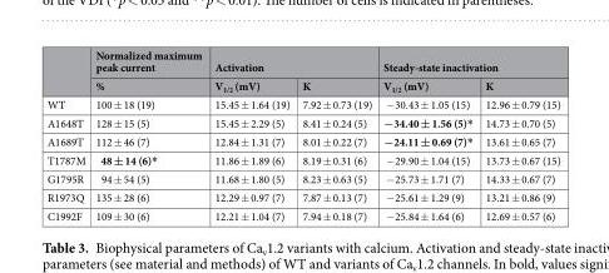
<table><thead><tr><td rowspan="2"></td><td rowspan="2">Normalized maximum peak current %</td><td colspan="2">Activation</td><td colspan="2">Steady-state inactivation</td></tr><tr><td>V<sub>1/2</sub> (mV)</td><td>K</td><td>V<sub>1/2</sub> (mV)</td><td>K</td></tr></thead><tbody><tr><td>WT</td><td>100 ± 18 (19)</td><td>15.45 ± 1.64 (19)</td><td>7.92 ± 0.73 (19)</td><td>−30.43 ± 1.05 (15)</td><td>12.96 ± 0.79 (15)</td></tr><tr><td>A1648T</td><td>128 ± 15 (5)</td><td>15.45 ± 2.29 (5)</td><td>8.41 ± 0.24 (5)</td><td>−34.40 ± 1.56 (5)*</td><td>14.73 ± 0.70 (5)</td></tr><tr><td>A1689T</td><td>112 ± 46 (7)</td><td>12.84 ± 1.31 (7)</td><td>8.01 ± 0.22 (7)</td><td>−24.11 ± 0.69 (7)*</td><td>13.61 ± 0.65 (7)</td></tr><tr><td>T1787M</td><td>48 ± 14 (6)*</td><td>11.86 ± 1.89 (6)</td><td>8.19 ± 0.31 (6)</td><td>−29.90 ± 1.04 (15)</td><td>13.73 ± 0.67 (15)</td></tr><tr><td>G1795R</td><td>94 ± 54 (5)</td><td>11.68 ± 1.80 (5)</td><td>8.23 ± 0.63 (5)</td><td>−25.73 ± 1.71 (7)</td><td>14.33 ± 0.67 (7)</td></tr><tr><td>R1973Q</td><td>135 ± 28 (6)</td><td>12.29 ± 0.97 (7)</td><td>7.87 ± 0.13 (7)</td><td>−25.61 ± 1.29 (9)</td><td>13.21 ± 0.86 (9)</td></tr><tr><td>C1992F</td><td>109 ± 30 (6)</td><td>12.21 ± 1.04 (7)</td><td>7.94 ± 0.18 (7)</td><td>−25.84 ± 1.64 (6)</td><td>12.69 ± 0.57 (6)</td></tr></tbody></table>